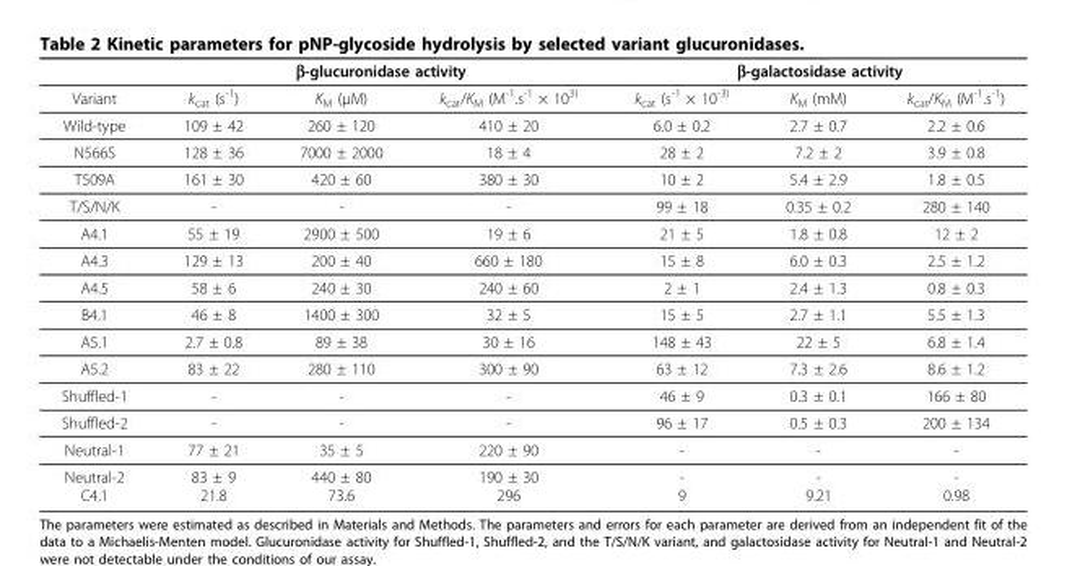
<table><thead><tr><td rowspan="2">Variant</td><td colspan="3">β-glucuronidase activity</td><td colspan="3">β-galactosidase activity</td></tr><tr><td>k<sub>cat</sub> (s<sup>-1</sup>)</td><td>K<sub>M</sub> (μM)</td><td>k<sub>cat</sub>/K<sub>M</sub> (M<sup>-1</sup>.s<sup>-1</sup> × 10<sup>3)</sup></td><td>k<sub>cat</sub> (s<sup>-1</sup> × 10<sup>-3)</sup></td><td>K<sub>M</sub> (mM)</td><td>k<sub>cat</sub>/K<sub>M</sub> (M<sup>-1</sup>.s<sup>-1</sup>)</td></tr></thead><tbody><tr><td>Wild-type</td><td>109 ± 42</td><td>260 ± 120</td><td>410 ± 20</td><td>6.0 ± 0.2</td><td>2.7 ± 0.7</td><td>2.2 ± 0.6</td></tr><tr><td>N566S</td><td>128 ± 36</td><td>7000 ± 2000</td><td>18 ± 4</td><td>28 ± 2</td><td>7.2 ± 2</td><td>3.9 ± 0.8</td></tr><tr><td>T509A</td><td>161 ± 30</td><td>420 ± 60</td><td>380 ± 30</td><td>10 ± 2</td><td>5.4 ± 2.9</td><td>1.8 ± 0.5</td></tr><tr><td>T/S/N/K</td><td>-</td><td>-</td><td>-</td><td>99 ± 18</td><td>0.35 ± 0.2</td><td>280 ± 140</td></tr><tr><td>A4.1</td><td>55 ± 19</td><td>2900 ± 500</td><td>19 ± 6</td><td>21 ± 5</td><td>1.8 ± 0.8</td><td>12 ± 2</td></tr><tr><td>A4.3</td><td>129 ± 13</td><td>200 ± 40</td><td>660 ± 180</td><td>15 ± 8</td><td>6.0 ± 0.3</td><td>2.5 ± 1.2</td></tr><tr><td>A4.5</td><td>58 ± 6</td><td>240 ± 30</td><td>240 ± 60</td><td>2 ± 1</td><td>2.4 ± 1.3</td><td>0.8 ± 0.3</td></tr><tr><td>B4.1</td><td>46 ± 8</td><td>1400 ± 300</td><td>32 ± 5</td><td>15 ± 5</td><td>2.7 ± 1.1</td><td>5.5 ± 1.3</td></tr><tr><td>A5.1</td><td>2.7 ± 0.8</td><td>89 ± 38</td><td>30 ± 16</td><td>148 ± 43</td><td>22 ± 5</td><td>6.8 ± 1.4</td></tr><tr><td>A5.2</td><td>83 ± 22</td><td>280 ± 110</td><td>300 ± 90</td><td>63 ± 12</td><td>7.3 ± 2.6</td><td>8.6 ± 1.2</td></tr><tr><td>Shuffled-1</td><td>-</td><td>-</td><td>-</td><td>46 ± 9</td><td>0.3 ± 0.1</td><td>166 ± 80</td></tr><tr><td>Shuffled-2</td><td>-</td><td>-</td><td>-</td><td>96 ± 17</td><td>0.5 ± 0.3</td><td>200 ± 134</td></tr><tr><td>Neutral-1</td><td>77 ± 21</td><td>35 ± 5</td><td>220 ± 90</td><td>-</td><td>-</td><td>-</td></tr><tr><td>Neutral-2 C4.1</td><td>83 ± 9 21.8</td><td>440 ± 80 73.6</td><td>190 ± 30 296</td><td>- 9</td><td>- 9.21</td><td>- 0.98</td></tr></tbody></table>